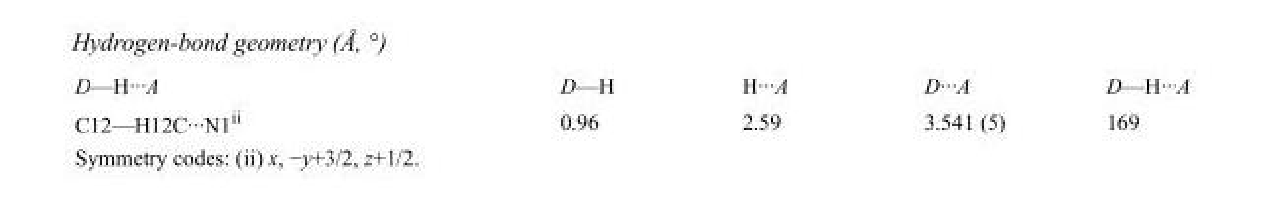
<table><tbody><tr><td>D—H···A</td><td>D—H</td><td>H···A</td><td>D···A</td><td>D—H···A</td></tr><tr><td>C12—H12C···N1<sup>ii</sup></td><td>0.96</td><td>2.59</td><td>3.541 (5)</td><td>169</td></tr></tbody></table>